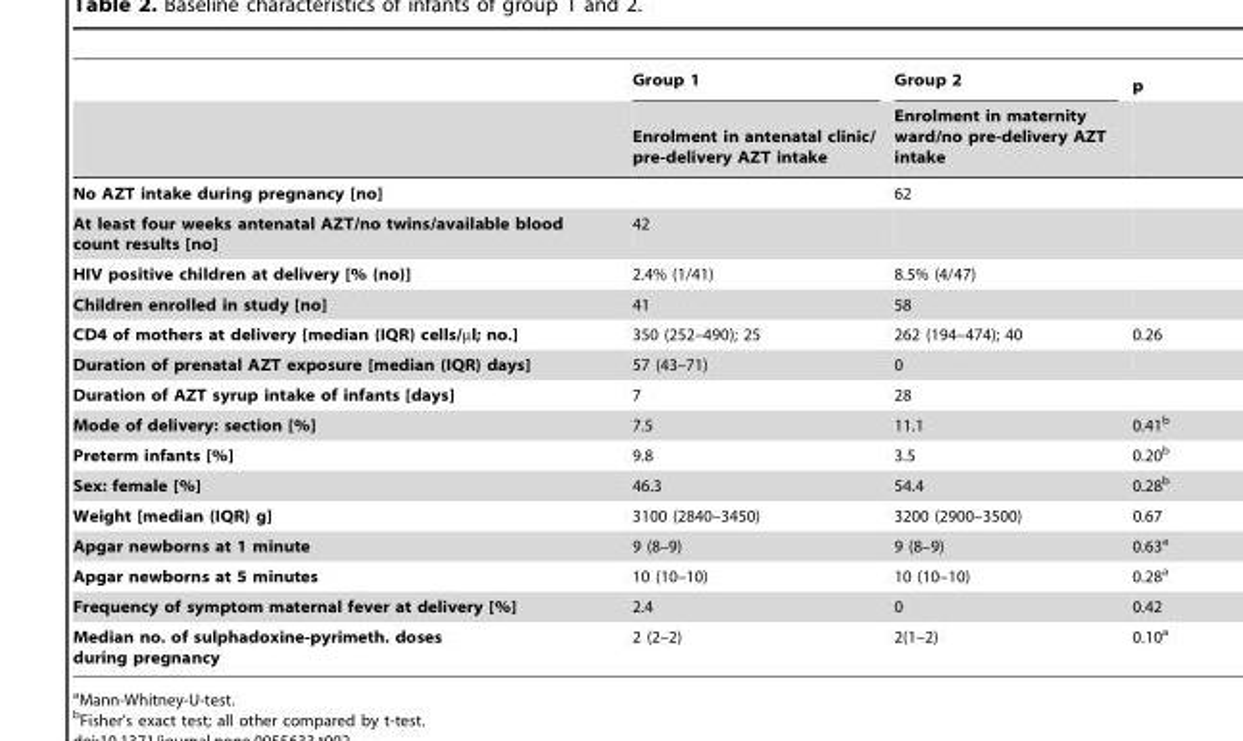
<table><thead><tr><td rowspan="2"></td><td rowspan="2">Group 1 Enrolment in antenatal clinic/ pre-delivery AZT intake</td><td rowspan="2">Group 2 Enrolment in maternity ward/no pre-delivery AZT intake</td><td rowspan="2">p</td></tr><tr></tr></thead><tbody><tr><td>No AZT intake during pregnancy [no]</td><td></td><td>62</td><td></td></tr><tr><td>At least four weeks antenatal AZT/no twins/available blood count results [no]</td><td>42</td><td></td><td></td></tr><tr><td>HIV positive children at delivery [% (no)]</td><td>2.4% (1/41)</td><td>8.5% (4/47)</td><td></td></tr><tr><td>Children enrolled in study [no]</td><td>41</td><td>58</td><td></td></tr><tr><td>CD4 of mothers at delivery [median (IQR) cells/µl; no.]</td><td>350 (252–490); 25</td><td>262 (194–474); 40</td><td>0.26</td></tr><tr><td>Duration of prenatal AZT exposure [median (IQR) days]</td><td>57 (43–71)</td><td>0</td><td></td></tr><tr><td>Duration of AZT syrup intake of infants [days]</td><td>7</td><td>28</td><td></td></tr><tr><td>Mode of delivery: section [%]</td><td>7.5</td><td>11.1</td><td>0.41<sup>b</sup></td></tr><tr><td>Preterm infants [%]</td><td>9.8</td><td>3.5</td><td>0.20<sup>b</sup></td></tr><tr><td>Sex: female [%]</td><td>46.3</td><td>54.4</td><td>0.28<sup>b</sup></td></tr><tr><td>Weight [median (IQR) g]</td><td>3100 (2840–3450)</td><td>3200 (2900–3500)</td><td>0.67</td></tr><tr><td>Apgar newborns at 1 minute</td><td>9 (8–9)</td><td>9 (8–9)</td><td>0.63<sup>a</sup></td></tr><tr><td>Apgar newborns at 5 minutes</td><td>10 (10–10)</td><td>10 (10–10)</td><td>0.28<sup>a</sup></td></tr><tr><td>Frequency of symptom maternal fever at delivery [%]</td><td>2.4</td><td>0</td><td>0.42</td></tr><tr><td>Median no. of sulphadoxine-pyrimeth. doses during pregnancy</td><td>2 (2–2)</td><td>2(1–2)</td><td>0.10<sup>a</sup></td></tr></tbody></table>